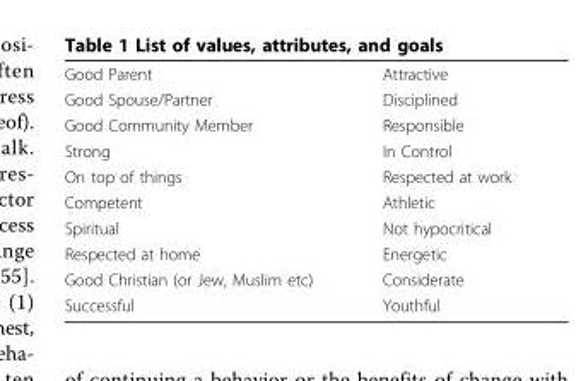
<table><tbody><tr><td>Good Parent</td><td>Attractive</td></tr><tr><td>Good Spouse/Partner</td><td>Disciplined</td></tr><tr><td>Good Community Member</td><td>Responsible</td></tr><tr><td>Strong</td><td>In Control</td></tr><tr><td>On top of things</td><td>Respected at work</td></tr><tr><td>Competent</td><td>Athletic</td></tr><tr><td>Spiritual</td><td>Not hypocritical</td></tr><tr><td>Respected at home</td><td>Energetic</td></tr><tr><td>Good Christian (or Jew, Muslim etc)</td><td>Considerate</td></tr><tr><td>Successful</td><td>Youthful</td></tr></tbody></table>